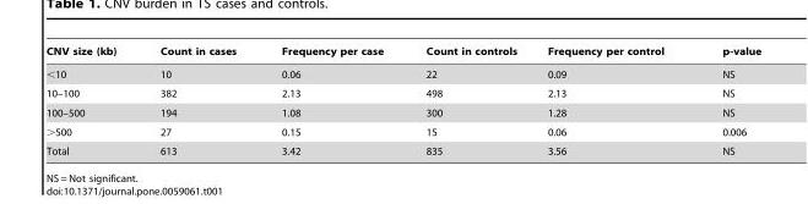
<table><thead><tr><td>CNV size (kb)</td><td>Count in cases</td><td>Frequency per case</td><td>Count in controls</td><td>Frequency per control</td><td>p-value</td></tr></thead><tbody><tr><td>&lt;10</td><td>10</td><td>0.06</td><td>22</td><td>0.09</td><td>NS</td></tr><tr><td>10–100</td><td>382</td><td>2.13</td><td>498</td><td>2.13</td><td>NS</td></tr><tr><td>100–500</td><td>194</td><td>1.08</td><td>300</td><td>1.28</td><td>NS</td></tr><tr><td>&gt;500</td><td>27</td><td>0.15</td><td>15</td><td>0.06</td><td>0.006</td></tr><tr><td>Total</td><td>613</td><td>3.42</td><td>835</td><td>3.56</td><td>NS</td></tr></tbody></table>